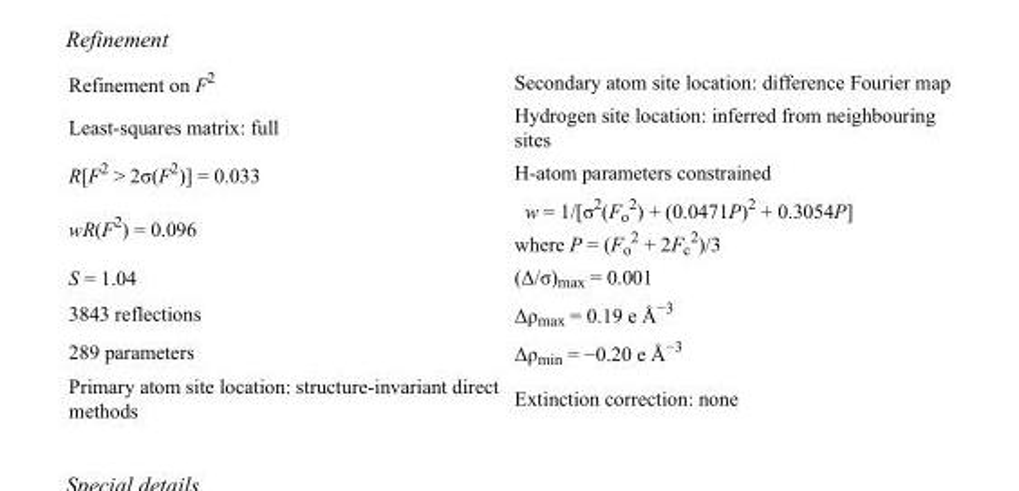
<table><tbody><tr><td>Refinement on F<sup>2</sup></td><td>Secondary atom site location: difference Fourier map</td></tr><tr><td>Least-squares matrix: full</td><td>Hydrogen site location: inferred from neighbouring sites</td></tr><tr><td>R[F<sup>2</sup> &gt; 2σ(F<sup>2</sup>)] = 0.033</td><td>H-atom parameters constrained</td></tr><tr><td>wR(F<sup>2</sup>) = 0.096</td><td>w = 1/[σ<sup>2</sup>(F<sub>o</sub> <sup>2</sup>) + (0.0471P)<sup>2</sup> + 0.3054P] where P = (F<sub>o</sub> <sup>2</sup> + 2F<sub>c</sub> <sup>2</sup>)/3</td></tr><tr><td>S = 1.04</td><td>(Δ/σ)<sub>max</sub> = 0.001</td></tr><tr><td>3843 reflections</td><td>Δρ<sub>max</sub> = 0.19 e Å<sup>−3</sup></td></tr><tr><td>289 parameters</td><td>Δρ<sub>min</sub> = −0.20 e Å<sup>−3</sup></td></tr><tr><td>Primary atom site location: structure-invariant direct methods</td><td>Extinction correction: none</td></tr></tbody></table>